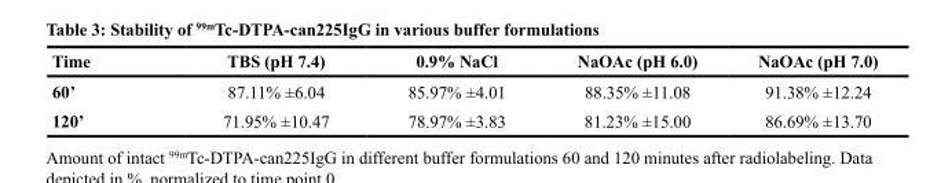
<table><thead><tr><td>Time</td><td>TBS (pH 7.4)</td><td>0.9% NaCl</td><td>NaOAc (pH 6.0)</td><td>NaOAc (pH 7.0)</td></tr></thead><tbody><tr><td>60’</td><td>87.11% ±6.04</td><td>85.97% ±4.01</td><td>88.35% ±11.08</td><td>91.38% ±12.24</td></tr><tr><td>120’</td><td>71.95% ±10.47</td><td>78.97% ±3.83</td><td>81.23% ±15.00</td><td>86.69% ±13.70</td></tr></tbody></table>